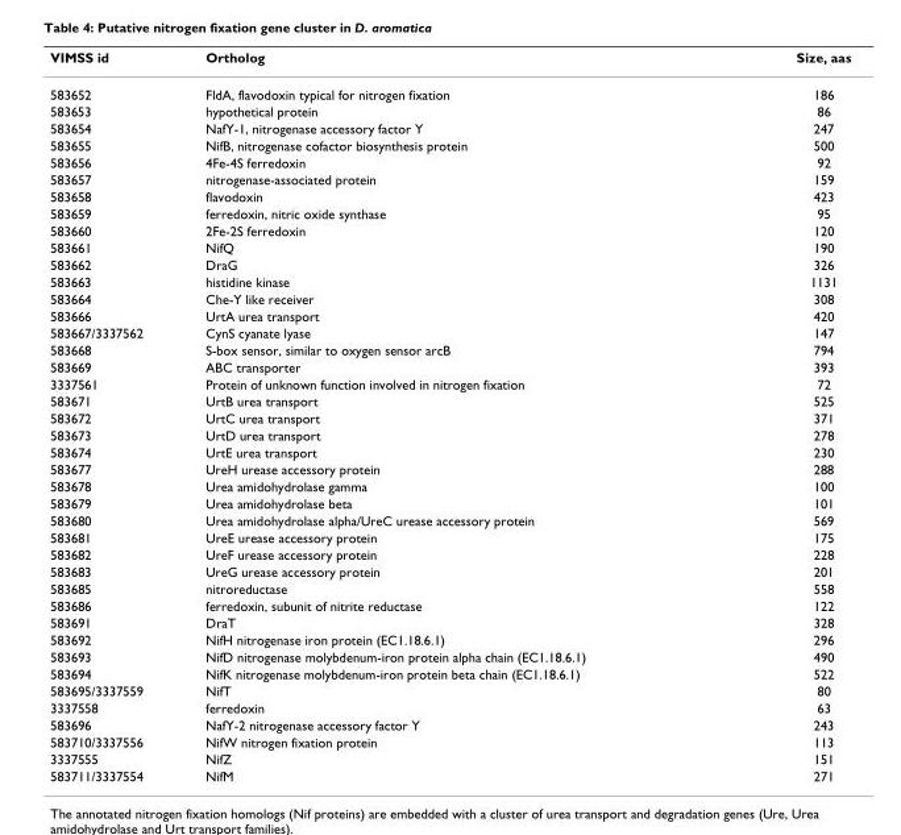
<table><thead><tr><td>VIMSS id</td><td>Ortholog</td><td>Size, aas</td></tr></thead><tbody><tr><td>583652</td><td>FldA, flavodoxin typical for nitrogen fixation</td><td>186</td></tr><tr><td>583653</td><td>hypothetical protein</td><td>86</td></tr><tr><td>583654</td><td>NafY-1, nitrogenase accessory factor Y</td><td>247</td></tr><tr><td>583655</td><td>NifB, nitrogenase cofactor biosynthesis protein</td><td>500</td></tr><tr><td>583656</td><td>4Fe-4S ferredoxin</td><td>92</td></tr><tr><td>583657</td><td>nitrogenase-associated protein</td><td>159</td></tr><tr><td>583658</td><td>flavodoxin</td><td>423</td></tr><tr><td>583659</td><td>ferredoxin, nitric oxide synthase</td><td>95</td></tr><tr><td>583660</td><td>2Fe-2S ferredoxin</td><td>120</td></tr><tr><td>583661</td><td>NifQ</td><td>190</td></tr><tr><td>583662</td><td>DraG</td><td>326</td></tr><tr><td>583663</td><td>histidine kinase</td><td>1131</td></tr><tr><td>583664</td><td>Che-Y like receiver</td><td>308</td></tr><tr><td>583666</td><td>UrtA urea transport</td><td>420</td></tr><tr><td>583667/3337562</td><td>CynS cyanate lyase</td><td>147</td></tr><tr><td>583668</td><td>S-box sensor, similar to oxygen sensor arcB</td><td>794</td></tr><tr><td>583669</td><td>ABC transporter</td><td>393</td></tr><tr><td>3337561</td><td>Protein of unknown function involved in nitrogen fixation</td><td>72</td></tr><tr><td>583671</td><td>UrtB urea transport</td><td>525</td></tr><tr><td>583672</td><td>UrtC urea transport</td><td>371</td></tr><tr><td>583673</td><td>UrtD urea transport</td><td>278</td></tr><tr><td>583674</td><td>UrtE urea transport</td><td>230</td></tr><tr><td>583677</td><td>UreH urease accessory protein</td><td>288</td></tr><tr><td>583678</td><td>Urea amidohydrolase gamma</td><td>100</td></tr><tr><td>583679</td><td>Urea amidohydrolase beta</td><td>101</td></tr><tr><td>583680</td><td>Urea amidohydrolase alpha/UreC urease accessory protein</td><td>569</td></tr><tr><td>583681</td><td>UreE urease accessory protein</td><td>175</td></tr><tr><td>583682</td><td>UreF urease accessory protein</td><td>228</td></tr><tr><td>583683</td><td>UreG urease accessory protein</td><td>201</td></tr><tr><td>583685</td><td>nitroreductase</td><td>558</td></tr><tr><td>583686</td><td>ferredoxin, subunit of nitrite reductase</td><td>122</td></tr><tr><td>583691</td><td>DraT</td><td>328</td></tr><tr><td>583692</td><td>NifH nitrogenase iron protein (EC1.18.6.1)</td><td>296</td></tr><tr><td>583693</td><td>NifD nitrogenase molybdenum-iron protein alpha chain (EC1.18.6.1)</td><td>490</td></tr><tr><td>583694</td><td>NifK nitrogenase molybdenum-iron protein beta chain (EC1.18.6.1)</td><td>522</td></tr><tr><td>583695/3337559</td><td>NifT</td><td>80</td></tr><tr><td>3337558</td><td>ferredoxin</td><td>63</td></tr><tr><td>583696</td><td>NafY-2 nitrogenase accessory factor Y</td><td>243</td></tr><tr><td>583710/3337556</td><td>NifW nitrogen fixation protein</td><td>113</td></tr><tr><td>3337555</td><td>NifZ</td><td>151</td></tr><tr><td>583711/3337554</td><td>NifM</td><td>271</td></tr></tbody></table>